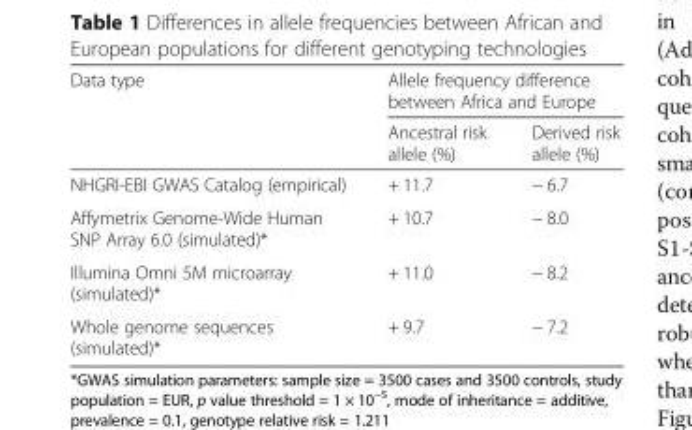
<table><thead><tr><td rowspan="2">Data type</td><td colspan="2">Allele frequency difference between Africa and Europe</td></tr><tr><td>Ancestral risk allele (%)</td><td>Derived risk allele (%)</td></tr></thead><tbody><tr><td>NHGRI-EBI GWAS Catalog (empirical)</td><td>+ 11.7</td><td>− 6.7</td></tr><tr><td>Affymetrix Genome-Wide Human SNP Array 6.0 (simulated)*</td><td>+ 10.7</td><td>− 8.0</td></tr><tr><td>Illumina Omni 5M microarray (simulated)*</td><td>+ 11.0</td><td>− 8.2</td></tr><tr><td>Whole genome sequences (simulated)*</td><td>+ 9.7</td><td>− 7.2</td></tr></tbody></table>